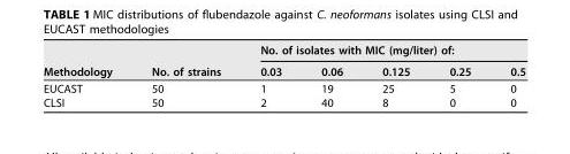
<table><thead><tr><td rowspan="2">Methodology</td><td rowspan="2">No. of strains</td><td colspan="5">No. of isolates with MIC (mg/liter) of:</td></tr><tr><td>0.03</td><td>0.06</td><td>0.125</td><td>0.25</td><td>0.5</td></tr></thead><tbody><tr><td>EUCAST</td><td>50</td><td>1</td><td>19</td><td>25</td><td>5</td><td>0</td></tr><tr><td>CLSI</td><td>50</td><td>2</td><td>40</td><td>8</td><td>0</td><td>0</td></tr></tbody></table>